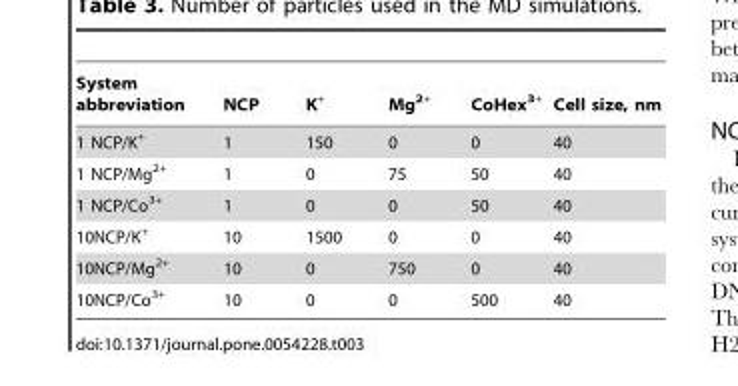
<table><thead><tr><td>System abbreviation</td><td>NCP</td><td>K<sup>+</sup></td><td>Mg<sup>2+</sup></td><td>CoHex<sup>3+</sup></td><td>Cell size, nm</td></tr></thead><tbody><tr><td>1 NCP/K<sup>+</sup></td><td>1</td><td>150</td><td>0</td><td>0</td><td>40</td></tr><tr><td>1 NCP/Mg<sup>2+</sup></td><td>1</td><td>0</td><td>75</td><td>50</td><td>40</td></tr><tr><td>1 NCP/Co<sup>3+</sup></td><td>1</td><td>0</td><td>0</td><td>50</td><td>40</td></tr><tr><td>10NCP/K<sup>+</sup></td><td>10</td><td>1500</td><td>0</td><td>0</td><td>40</td></tr><tr><td>10NCP/Mg<sup>2+</sup></td><td>10</td><td>0</td><td>750</td><td>0</td><td>40</td></tr><tr><td>10NCP/Co<sup>3+</sup></td><td>10</td><td>0</td><td>0</td><td>500</td><td>40</td></tr></tbody></table>